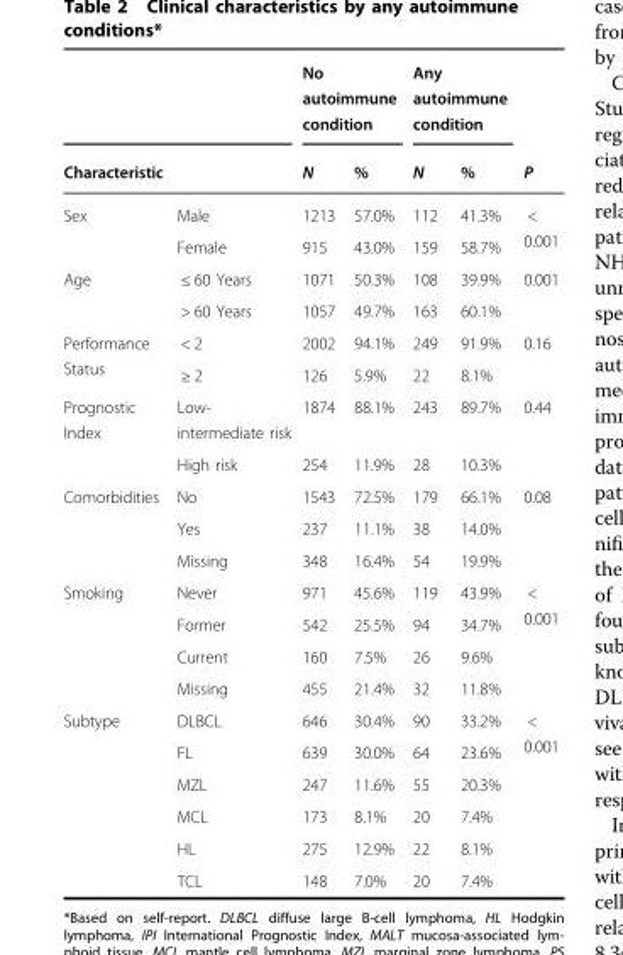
<table><thead><tr><td></td><td></td><td colspan="2">No autoimmune condition</td><td colspan="2">Any autoimmune condition</td><td rowspan="2">P</td></tr><tr><td colspan="2">Characteristic</td><td>N</td><td>%</td><td>N</td><td>%</td></tr></thead><tbody><tr><td rowspan="2">Sex</td><td>Male</td><td>1213</td><td>57.0%</td><td>112</td><td>41.3%</td><td rowspan="2">&lt; 0.001</td></tr><tr><td>Female</td><td>915</td><td>43.0%</td><td>159</td><td>58.7%</td></tr><tr><td rowspan="2">Age</td><td>≤ 60 Years</td><td>1071</td><td>50.3%</td><td>108</td><td>39.9%</td><td rowspan="2">0.001</td></tr><tr><td>&gt; 60 Years</td><td>1057</td><td>49.7%</td><td>163</td><td>60.1%</td></tr><tr><td rowspan="2">Performance Status</td><td>&lt; 2</td><td>2002</td><td>94.1%</td><td>249</td><td>91.9%</td><td rowspan="2">0.16</td></tr><tr><td>≥ 2</td><td>126</td><td>5.9%</td><td>22</td><td>8.1%</td></tr><tr><td rowspan="2">Prognostic Index</td><td>Low- intermediate risk</td><td>1874</td><td>88.1%</td><td>243</td><td>89.7%</td><td rowspan="2">0.44</td></tr><tr><td>High risk</td><td>254</td><td>11.9%</td><td>28</td><td>10.3%</td></tr><tr><td rowspan="3">Comorbidities</td><td>No</td><td>1543</td><td>72.5%</td><td>179</td><td>66.1%</td><td rowspan="3">0.08</td></tr><tr><td>Yes</td><td>237</td><td>11.1%</td><td>38</td><td>14.0%</td></tr><tr><td>Missing</td><td>348</td><td>16.4%</td><td>54</td><td>19.9%</td></tr><tr><td rowspan="4">Smoking</td><td>Never</td><td>971</td><td>45.6%</td><td>119</td><td>43.9%</td><td rowspan="4">&lt; 0.001</td></tr><tr><td>Former</td><td>542</td><td>25.5%</td><td>94</td><td>34.7%</td></tr><tr><td>Current</td><td>160</td><td>7.5%</td><td>26</td><td>9.6%</td></tr><tr><td>Missing</td><td>455</td><td>21.4%</td><td>32</td><td>11.8%</td></tr><tr><td rowspan="6">Subtype</td><td>DLBCL</td><td>646</td><td>30.4%</td><td>90</td><td>33.2%</td><td rowspan="6">&lt; 0.001</td></tr><tr><td>FL</td><td>639</td><td>30.0%</td><td>64</td><td>23.6%</td></tr><tr><td>MZL</td><td>247</td><td>11.6%</td><td>55</td><td>20.3%</td></tr><tr><td>MCL</td><td>173</td><td>8.1%</td><td>20</td><td>7.4%</td></tr><tr><td>HL</td><td>275</td><td>12.9%</td><td>22</td><td>8.1%</td></tr><tr><td>TCL</td><td>148</td><td>7.0%</td><td>20</td><td>7.4%</td></tr></tbody></table>